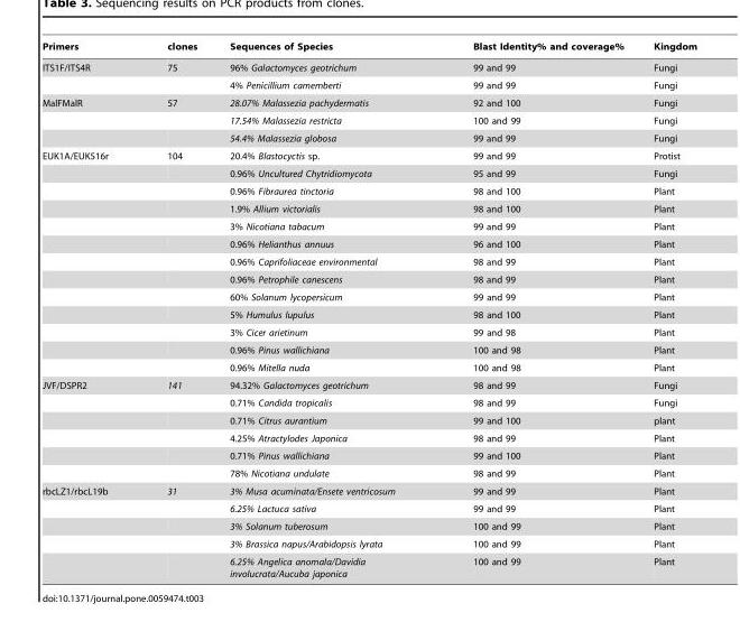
<table><thead><tr><td>Primers</td><td>clones</td><td>Sequences of Species</td><td>Blast Identity% and coverage%</td><td>Kingdom</td></tr></thead><tbody><tr><td rowspan="2">ITS1F/ITS4R</td><td>75</td><td>96% Galactomyces geotrichum</td><td>99 and 99</td><td>Fungi</td></tr><tr><td></td><td>4% Penicillium camemberti</td><td>99 and 99</td><td>Fungi</td></tr><tr><td rowspan="3">MalFMalR</td><td>57</td><td>28.07% Malassezia pachydermatis</td><td>92 and 100</td><td>Fungi</td></tr><tr><td></td><td>17.54% Malassezia restricta</td><td>100 and 99</td><td>Fungi</td></tr><tr><td></td><td>54.4% Malassezia globosa</td><td>99 and 99</td><td>Fungi</td></tr><tr><td rowspan="13">EUK1A/EUK516r</td><td>104</td><td>20.4% Blastocyctis sp.</td><td>99 and 99</td><td>Protist</td></tr><tr><td></td><td>0.96% Uncultured Chytridiomycota</td><td>95 and 99</td><td>Fungi</td></tr><tr><td></td><td>0.96% Fibraurea tinctoria</td><td>98 and 100</td><td>Plant</td></tr><tr><td></td><td>1.9% Allium victorialis</td><td>98 and 100</td><td>Plant</td></tr><tr><td></td><td>3% Nicotiana tabacum</td><td>99 and 99</td><td>Plant</td></tr><tr><td></td><td>0.96% Helianthus annuus</td><td>96 and 100</td><td>Plant</td></tr><tr><td></td><td>0.96% Caprifoliaceae environmental</td><td>98 and 99</td><td>Plant</td></tr><tr><td></td><td>0.96% Petrophile canescens</td><td>98 and 99</td><td>Plant</td></tr><tr><td></td><td>60% Solanum lycopersicum</td><td>99 and 99</td><td>Plant</td></tr><tr><td></td><td>5% Humulus lupulus</td><td>98 and 100</td><td>Plant</td></tr><tr><td></td><td>3% Cicer arietinum</td><td>99 and 98</td><td>Plant</td></tr><tr><td></td><td>0.96% Pinus wallichiana</td><td>100 and 98</td><td>Plant</td></tr><tr><td></td><td>0.96% Mitella nuda</td><td>100 and 98</td><td>Plant</td></tr><tr><td rowspan="6">JVF/DSPR2</td><td>141</td><td>94.32% Galactomyces geotrichum</td><td>98 and 99</td><td>Fungi</td></tr><tr><td></td><td>0.71% Candida tropicalis</td><td>98 and 99</td><td>Fungi</td></tr><tr><td></td><td>0.71% Citrus aurantium</td><td>99 and 100</td><td>plant</td></tr><tr><td></td><td>4.25% Atractylodes Japonica</td><td>98 and 99</td><td>Plant</td></tr><tr><td></td><td>0.71% Pinus wallichiana</td><td>99 and 100</td><td>Plant</td></tr><tr><td></td><td>78% Nicotiana undulate</td><td>98 and 99</td><td>Plant</td></tr><tr><td rowspan="5">rbcLZ1/rbcL19b</td><td>31</td><td>3% Musa acuminata/Ensete ventricosum</td><td>99 and 99</td><td>Plant</td></tr><tr><td></td><td>6.25% Lactuca sativa</td><td>99 and 99</td><td>Plant</td></tr><tr><td></td><td>3% Solanum tuberosum</td><td>100 and 99</td><td>Plant</td></tr><tr><td></td><td>3% Brassica napus/Arabidopsis lyrata</td><td>100 and 99</td><td>Plant</td></tr><tr><td></td><td>6.25% Angelica anomala/Davidia involucrata/Aucuba japonica</td><td>100 and 99</td><td>Plant</td></tr></tbody></table>